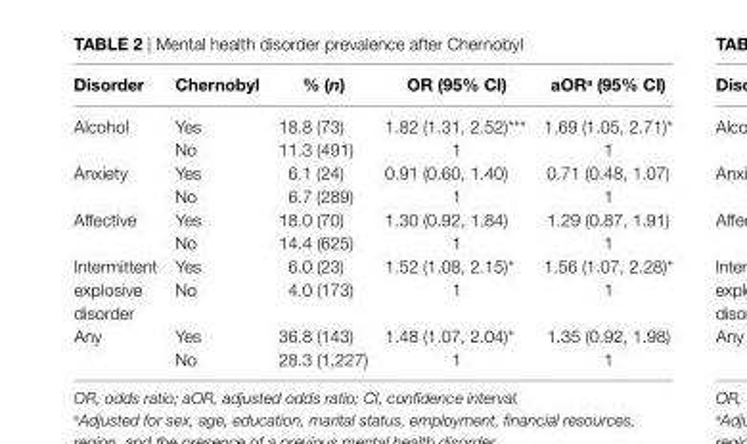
<table><thead><tr><td>Disorder</td><td>chernobyl</td><td>% (n)</td><td>Or (95% ci)</td><td>aOr<sup>a</sup> (95% ci)</td></tr></thead><tbody><tr><td rowspan="2">Alcohol</td><td>Yes</td><td>18.8 (73)</td><td>1.82 (1.31, 2.52)***</td><td>1.69 (1.05, 2.71)*</td></tr><tr><td>No</td><td>11.3 (491)</td><td>1</td><td>1</td></tr><tr><td rowspan="2">Anxiety</td><td>Yes</td><td>6.1 (24)</td><td>0.91 (0.60, 1.40)</td><td>0.71 (0.48, 1.07)</td></tr><tr><td>No</td><td>6.7 (289)</td><td>1</td><td>1</td></tr><tr><td rowspan="2">Affective</td><td>Yes</td><td>18.0 (70)</td><td>1.30 (0.92, 1.84)</td><td>1.29 (0.87, 1.91)</td></tr><tr><td>No</td><td>14.4 (625)</td><td>1</td><td>1</td></tr><tr><td rowspan="2">Intermittent explosive disorder</td><td>Yes</td><td>6.0 (23)</td><td>1.52 (1.08, 2.15)*</td><td>1.56 (1.07, 2.28)*</td></tr><tr><td>No</td><td>4.0 (173)</td><td>1</td><td>1</td></tr><tr><td rowspan="2">Any</td><td>Yes</td><td>36.8 (143)</td><td>1.48 (1.07, 2.04)*</td><td>1.35 (0.92, 1.98)</td></tr><tr><td>No</td><td>28.3 (1,227)</td><td>1</td><td>1</td></tr></tbody></table>